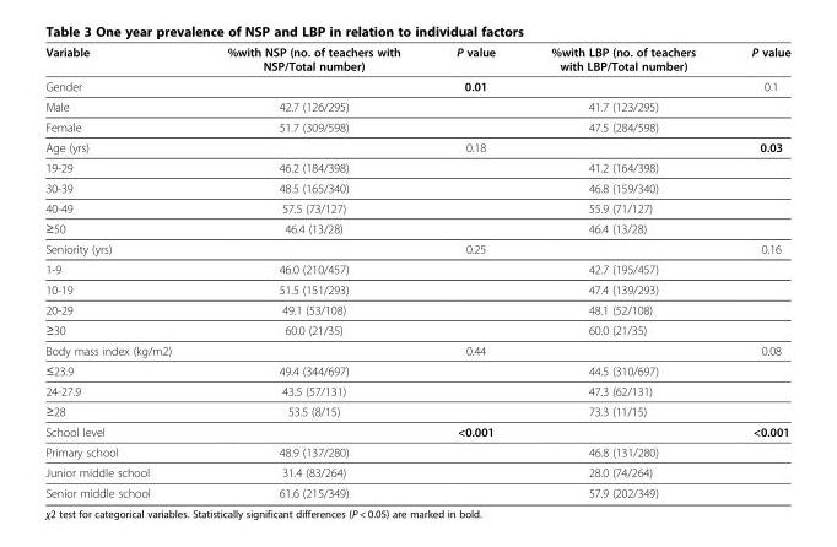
<table><thead><tr><td>Variable</td><td>%with NSP (no. of teachers with NSP/Total number)</td><td>P value</td><td>%with LBP (no. of teachers with LBP/Total number)</td><td>P value</td></tr></thead><tbody><tr><td>Gender</td><td></td><td>0.01</td><td></td><td>0.1</td></tr><tr><td>Male</td><td>42.7 (126/295)</td><td></td><td>41.7 (123/295)</td><td></td></tr><tr><td>Female</td><td>51.7 (309/598)</td><td></td><td>47.5 (284/598)</td><td></td></tr><tr><td>Age (yrs)</td><td></td><td>0.18</td><td></td><td>0.03</td></tr><tr><td>19-29</td><td>46.2 (184/398)</td><td></td><td>41.2 (164/398)</td><td></td></tr><tr><td>30-39</td><td>48.5 (165/340)</td><td></td><td>46.8 (159/340)</td><td></td></tr><tr><td>40-49</td><td>57.5 (73/127)</td><td></td><td>55.9 (71/127)</td><td></td></tr><tr><td>≥50</td><td>46.4 (13/28)</td><td></td><td>46.4 (13/28)</td><td></td></tr><tr><td>Seniority (yrs)</td><td></td><td>0.25</td><td></td><td>0.16</td></tr><tr><td>1-9</td><td>46.0 (210/457)</td><td></td><td>42.7 (195/457)</td><td></td></tr><tr><td>10-19</td><td>51.5 (151/293)</td><td></td><td>47.4 (139/293)</td><td></td></tr><tr><td>20-29</td><td>49.1 (53/108)</td><td></td><td>48.1 (52/108)</td><td></td></tr><tr><td>≥30</td><td>60.0 (21/35)</td><td></td><td>60.0 (21/35)</td><td></td></tr><tr><td>Body mass index (kg/m2)</td><td></td><td>0.44</td><td></td><td>0.08</td></tr><tr><td>≤23.9</td><td>49.4 (344/697)</td><td></td><td>44.5 (310/697)</td><td></td></tr><tr><td>24-27.9</td><td>43.5 (57/131)</td><td></td><td>47.3 (62/131)</td><td></td></tr><tr><td>≥28</td><td>53.5 (8/15)</td><td></td><td>73.3 (11/15)</td><td></td></tr><tr><td>School level</td><td></td><td>&lt;0.001</td><td></td><td>&lt;0.001</td></tr><tr><td>Primary school</td><td>48.9 (137/280)</td><td></td><td>46.8 (131/280)</td><td></td></tr><tr><td>Junior middle school</td><td>31.4 (83/264)</td><td></td><td>28.0 (74/264)</td><td></td></tr><tr><td>Senior middle school</td><td>61.6 (215/349)</td><td></td><td>57.9 (202/349)</td><td></td></tr></tbody></table>